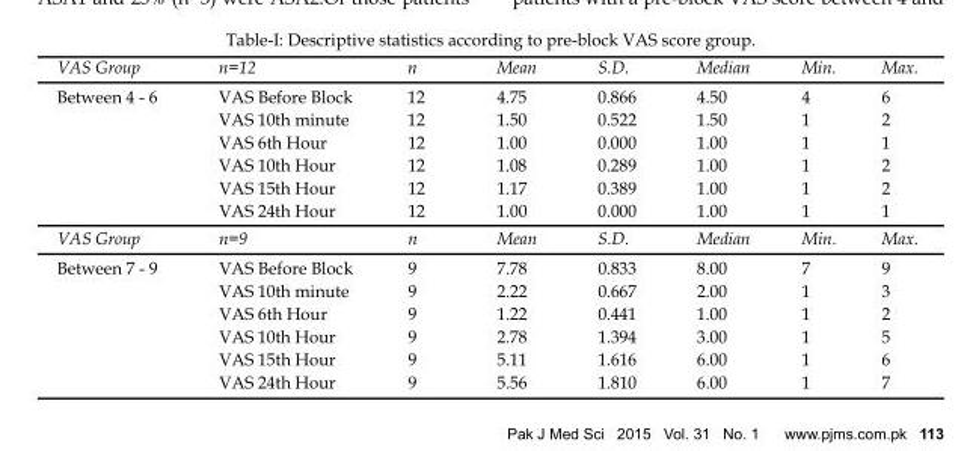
<table><thead><tr><td>VAS Group</td><td>n=12</td><td>n</td><td>Mean</td><td>S.D.</td><td>Median</td><td>Min.</td><td>Max.</td></tr></thead><tbody><tr><td rowspan="6">Between 4 - 6</td><td>VAS Before Block</td><td>12</td><td>4.75</td><td>0.866</td><td>4.50</td><td>4</td><td>6</td></tr><tr><td>VAS 10th minute</td><td>12</td><td>1.50</td><td>0.522</td><td>1.50</td><td>1</td><td>2</td></tr><tr><td>VAS 6th Hour</td><td>12</td><td>1.00</td><td>0.000</td><td>1.00</td><td>1</td><td>1</td></tr><tr><td>VAS 10th Hour</td><td>12</td><td>1.08</td><td>0.289</td><td>1.00</td><td>1</td><td>2</td></tr><tr><td>VAS 15th Hour</td><td>12</td><td>1.17</td><td>0.389</td><td>1.00</td><td>1</td><td>2</td></tr><tr><td>VAS 24th Hour</td><td>12</td><td>1.00</td><td>0.000</td><td>1.00</td><td>1</td><td>1</td></tr><tr><td>VAS Group</td><td>n=9</td><td>n</td><td>Mean</td><td>S.D.</td><td>Median</td><td>Min.</td><td>Max.</td></tr><tr><td rowspan="6">Between 7 - 9</td><td>VAS Before Block</td><td>9</td><td>7.78</td><td>0.833</td><td>8.00</td><td>7</td><td>9</td></tr><tr><td>VAS 10th minute</td><td>9</td><td>2.22</td><td>0.667</td><td>2.00</td><td>1</td><td>3</td></tr><tr><td>VAS 6th Hour</td><td>9</td><td>1.22</td><td>0.441</td><td>1.00</td><td>1</td><td>2</td></tr><tr><td>VAS 10th Hour</td><td>9</td><td>2.78</td><td>1.394</td><td>3.00</td><td>1</td><td>5</td></tr><tr><td>VAS 15th Hour</td><td>9</td><td>5.11</td><td>1.616</td><td>6.00</td><td>1</td><td>6</td></tr><tr><td>VAS 24th Hour</td><td>9</td><td>5.56</td><td>1.810</td><td>6.00</td><td>1</td><td>7</td></tr></tbody></table>